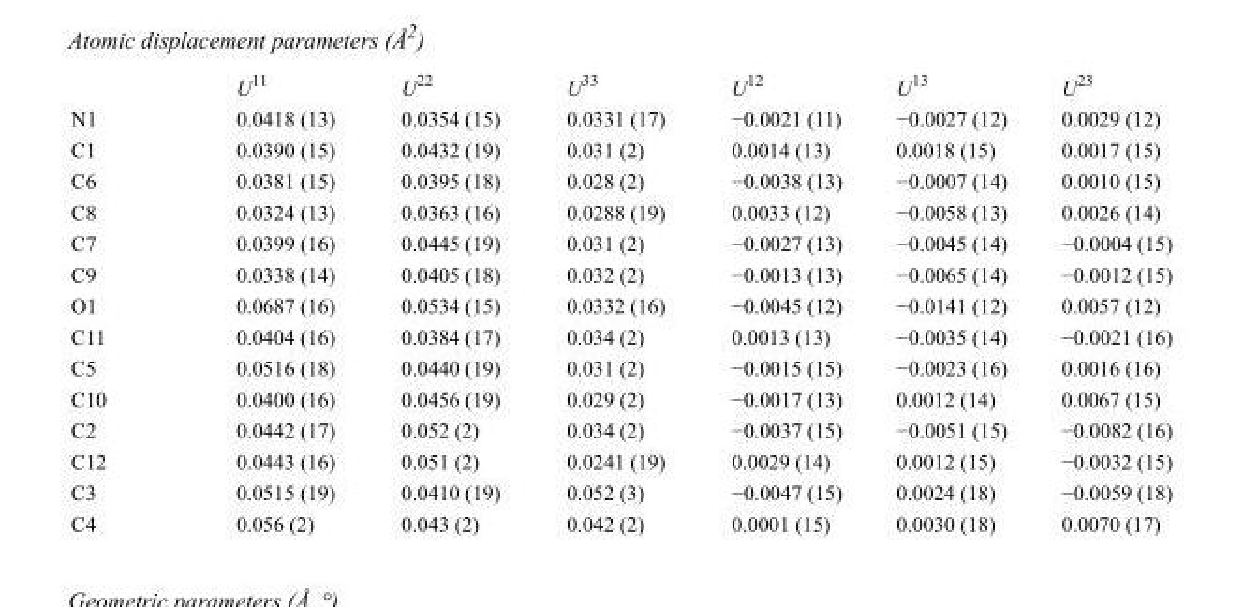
<table><thead><tr><td></td><td>U<sup>11</sup></td><td>U<sup>22</sup></td><td>U<sup>33</sup></td><td>U<sup>12</sup></td><td>U<sup>13</sup></td><td>U<sup>23</sup></td></tr></thead><tbody><tr><td>N1</td><td>0.0418 (13)</td><td>0.0354 (15)</td><td>0.0331 (17)</td><td>−0.0021 (11)</td><td>−0.0027 (12)</td><td>0.0029 (12)</td></tr><tr><td>C1</td><td>0.0390 (15)</td><td>0.0432 (19)</td><td>0.031 (2)</td><td>0.0014 (13)</td><td>0.0018 (15)</td><td>0.0017 (15)</td></tr><tr><td>C6</td><td>0.0381 (15)</td><td>0.0395 (18)</td><td>0.028 (2)</td><td>−0.0038 (13)</td><td>−0.0007 (14)</td><td>0.0010 (15)</td></tr><tr><td>C8</td><td>0.0324 (13)</td><td>0.0363 (16)</td><td>0.0288 (19)</td><td>0.0033 (12)</td><td>−0.0058 (13)</td><td>0.0026 (14)</td></tr><tr><td>C7</td><td>0.0399 (16)</td><td>0.0445 (19)</td><td>0.031 (2)</td><td>−0.0027 (13)</td><td>−0.0045 (14)</td><td>−0.0004 (15)</td></tr><tr><td>C9</td><td>0.0338 (14)</td><td>0.0405 (18)</td><td>0.032 (2)</td><td>−0.0013 (13)</td><td>−0.0065 (14)</td><td>−0.0012 (15)</td></tr><tr><td>O1</td><td>0.0687 (16)</td><td>0.0534 (15)</td><td>0.0332 (16)</td><td>−0.0045 (12)</td><td>−0.0141 (12)</td><td>0.0057 (12)</td></tr><tr><td>C11</td><td>0.0404 (16)</td><td>0.0384 (17)</td><td>0.034 (2)</td><td>0.0013 (13)</td><td>−0.0035 (14)</td><td>−0.0021 (16)</td></tr><tr><td>C5</td><td>0.0516 (18)</td><td>0.0440 (19)</td><td>0.031 (2)</td><td>−0.0015 (15)</td><td>−0.0023 (16)</td><td>0.0016 (16)</td></tr><tr><td>C10</td><td>0.0400 (16)</td><td>0.0456 (19)</td><td>0.029 (2)</td><td>−0.0017 (13)</td><td>0.0012 (14)</td><td>0.0067 (15)</td></tr><tr><td>C2</td><td>0.0442 (17)</td><td>0.052 (2)</td><td>0.034 (2)</td><td>−0.0037 (15)</td><td>−0.0051 (15)</td><td>−0.0082 (16)</td></tr><tr><td>C12</td><td>0.0443 (16)</td><td>0.051 (2)</td><td>0.0241 (19)</td><td>0.0029 (14)</td><td>0.0012 (15)</td><td>−0.0032 (15)</td></tr><tr><td>C3</td><td>0.0515 (19)</td><td>0.0410 (19)</td><td>0.052 (3)</td><td>−0.0047 (15)</td><td>0.0024 (18)</td><td>−0.0059 (18)</td></tr><tr><td>C4</td><td>0.056 (2)</td><td>0.043 (2)</td><td>0.042 (2)</td><td>0.0001 (15)</td><td>0.0030 (18)</td><td>0.0070 (17)</td></tr></tbody></table>